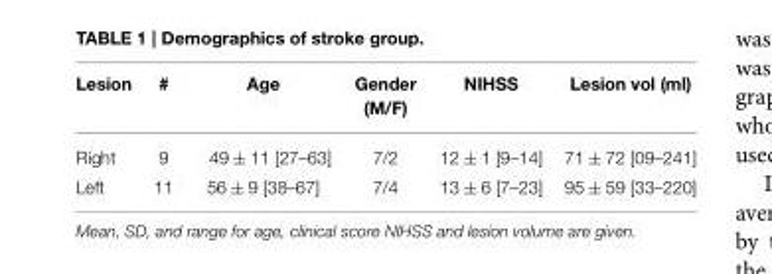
<table><thead><tr><td>Lesion</td><td>#</td><td>Age</td><td>Gender (M/F)</td><td>NIHSS</td><td>Lesion vol (ml)</td></tr></thead><tbody><tr><td>Right</td><td>9</td><td>49 ± 11 [27–63]</td><td>7/2</td><td>12 ± 1 [9–14]</td><td>71 ± 72 [09–241]</td></tr><tr><td>Left</td><td>11</td><td>56 ± 9 [38–67]</td><td>7/4</td><td>13 ± 6 [7–23]</td><td>95 ± 59 [33–220]</td></tr></tbody></table>